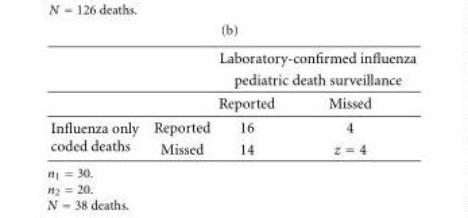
<table><thead><tr><td rowspan="3"></td><td rowspan="3"></td><td rowspan="2" colspan="2">Laboratory-confirmed influenza pediatric death surveillance</td></tr><tr></tr><tr><td>Reported</td><td>Missed</td></tr></thead><tbody><tr><td rowspan="2">Influenza only coded deaths</td><td>Reported</td><td>16</td><td>4</td></tr><tr><td>Missed</td><td>14</td><td>z = 4</td></tr></tbody></table>